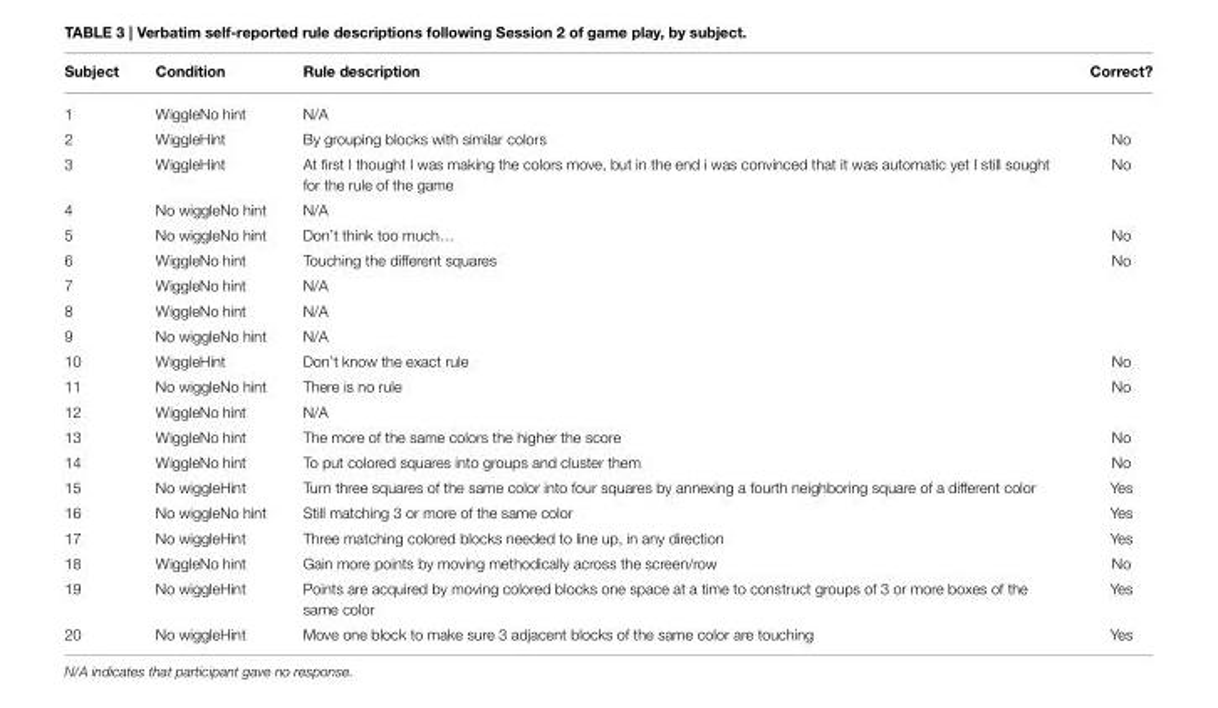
<table><thead><tr><td>Subject</td><td>Condition</td><td>Rule description</td><td>Correct?</td></tr></thead><tbody><tr><td>1</td><td>WiggleNo hint</td><td>N/A</td><td></td></tr><tr><td>2</td><td>WiggleHint</td><td>By grouping blocks with similar colors</td><td>No</td></tr><tr><td>3</td><td>WiggleHint</td><td>At first I thought I was making the colors move, but in the end i was convinced that it was automatic yet I still sought for the rule of the game</td><td>No</td></tr><tr><td>4</td><td>No wiggleNo hint</td><td>N/A</td><td></td></tr><tr><td>5</td><td>No wiggleNo hint</td><td>Don’t think too much…</td><td>No</td></tr><tr><td>6</td><td>WiggleNo hint</td><td>Touching the different squares</td><td>No</td></tr><tr><td>7</td><td>WiggleNo hint</td><td>N/A</td><td></td></tr><tr><td>8</td><td>WiggleNo hint</td><td>N/A</td><td></td></tr><tr><td>9</td><td>No wiggleNo hint</td><td>N/A</td><td></td></tr><tr><td>10</td><td>WiggleHint</td><td>Don’t know the exact rule</td><td>No</td></tr><tr><td>11</td><td>No wiggleNo hint</td><td>There is no rule</td><td>No</td></tr><tr><td>12</td><td>WiggleNo hint</td><td>N/A</td><td></td></tr><tr><td>13</td><td>WiggleNo hint</td><td>The more of the same colors the higher the score</td><td>No</td></tr><tr><td>14</td><td>WiggleNo hint</td><td>To put colored squares into groups and cluster them</td><td>No</td></tr><tr><td>15</td><td>No wiggleHint</td><td>Turn three squares of the same color into four squares by annexing a fourth neighboring square of a different color</td><td>Yes</td></tr><tr><td>16</td><td>No wiggleNo hint</td><td>Still matching 3 or more of the same color</td><td>Yes</td></tr><tr><td>17</td><td>No wiggleHint</td><td>Three matching colored blocks needed to line up, in any direction</td><td>Yes</td></tr><tr><td>18</td><td>WiggleNo hint</td><td>Gain more points by moving methodically across the screen/row</td><td>No</td></tr><tr><td>19</td><td>No wiggleHint</td><td>Points are acquired by moving colored blocks one space at a time to construct groups of 3 or more boxes of the same color</td><td>Yes</td></tr><tr><td>20</td><td>No wiggleHint</td><td>Move one block to make sure 3 adjacent blocks of the same color are touching</td><td>Yes</td></tr></tbody></table>